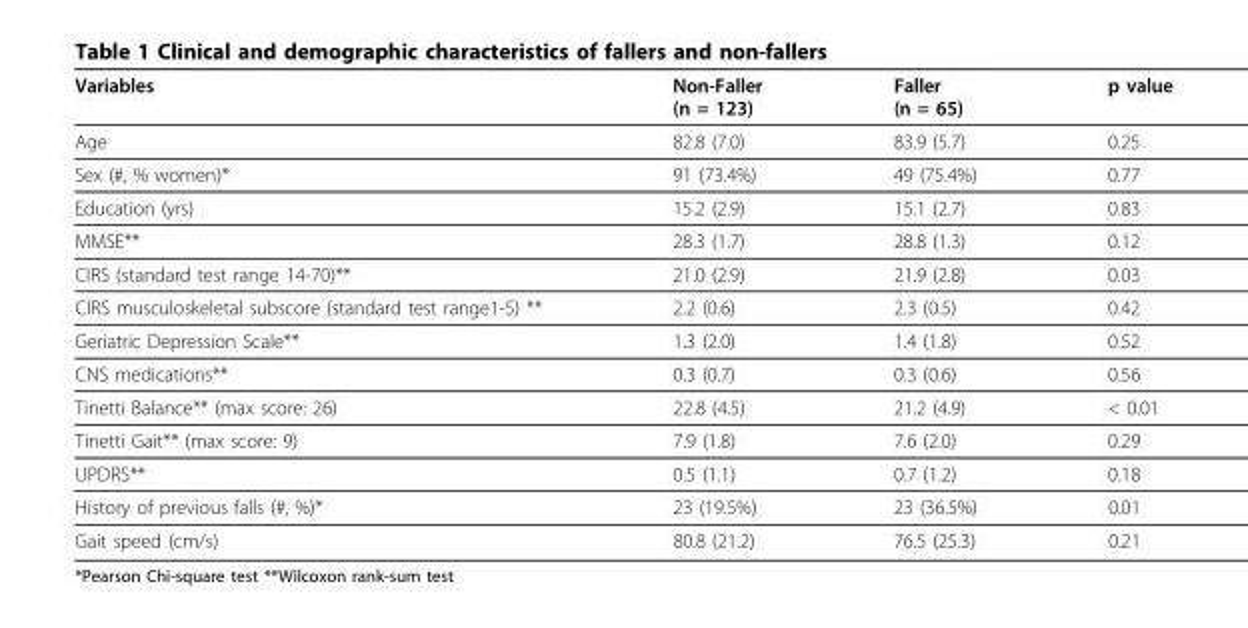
<table><thead><tr><td>Variables</td><td>Non-Faller (n = 123)</td><td>Faller (n = 65)</td><td>p value</td></tr></thead><tbody><tr><td>Age</td><td>82.8 (7.0)</td><td>83.9 (5.7)</td><td>0.25</td></tr><tr><td>Sex (#, % women)*</td><td>91 (73.4%)</td><td>49 (75.4%)</td><td>0.77</td></tr><tr><td>Education (yrs)</td><td>15.2 (2.9)</td><td>15.1 (2.7)</td><td>0.83</td></tr><tr><td>MMSE**</td><td>28.3 (1.7)</td><td>28.8 (1.3)</td><td>0.12</td></tr><tr><td>CIRS (standard test range 14-70)**</td><td>21.0 (2.9)</td><td>21.9 (2.8)</td><td>0.03</td></tr><tr><td>CIRS musculoskeletal subscore (standard test range1-5) **</td><td>2.2 (0.6)</td><td>2.3 (0.5)</td><td>0.42</td></tr><tr><td>Geriatric Depression Scale**</td><td>1.3 (2.0)</td><td>1.4 (1.8)</td><td>0.52</td></tr><tr><td>CNS medications**</td><td>0.3 (0.7)</td><td>0.3 (0.6)</td><td>0.56</td></tr><tr><td>Tinetti Balance** (max score: 26)</td><td>22.8 (4.5)</td><td>21.2 (4.9)</td><td>&lt; 0.01</td></tr><tr><td>Tinetti Gait** (max score: 9)</td><td>7.9 (1.8)</td><td>7.6 (2.0)</td><td>0.29</td></tr><tr><td>UPDRS**</td><td>0.5 (1.1)</td><td>0.7 (1.2)</td><td>0.18</td></tr><tr><td>History of previous falls (#, %)*</td><td>23 (19.5%)</td><td>23 (36.5%)</td><td>0.01</td></tr><tr><td>Gait speed (cm/s)</td><td>80.8 (21.2)</td><td>76.5 (25.3)</td><td>0.21</td></tr></tbody></table>